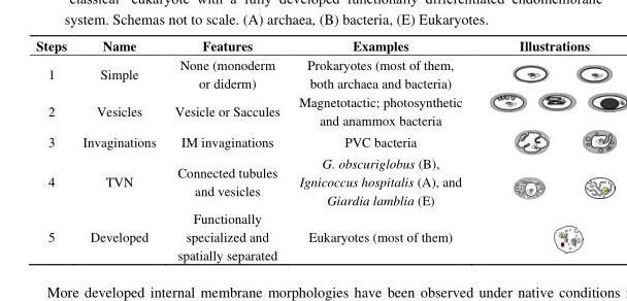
<table><thead><tr><td>Steps</td><td>Name</td><td>Features</td><td>Examples</td><td>Illustrations</td></tr></thead><tbody><tr><td>1</td><td>Simple</td><td>None (monoderm or diderm)</td><td>Prokaryotes (most of them, both archaea and bacteria)</td><td></td></tr><tr><td>2</td><td>Vesicles</td><td>Vesicle or Saccules</td><td>Magnetotactic; photosynthetic and anammox bacteria</td><td></td></tr><tr><td>3</td><td>Invaginations</td><td>IM invaginations</td><td>PVC bacteria</td><td></td></tr><tr><td>4</td><td>TVN</td><td>Connected tubules and vesicles</td><td>G. obscuriglobus (B), Ignicoccus hospitalis (A), and Giardia lamblia (E)</td><td></td></tr><tr><td>5</td><td>Developed</td><td>Functionally specialized and spatially separated</td><td>Eukaryotes (most of them)</td><td></td></tr></tbody></table>